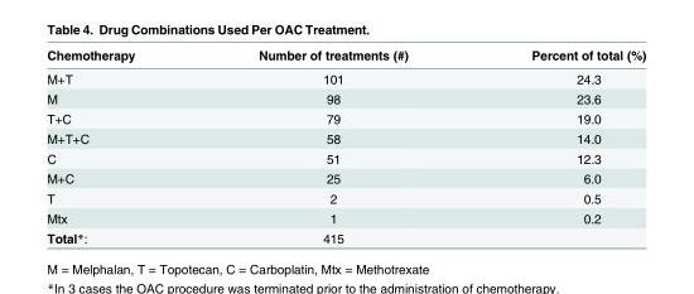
<table><thead><tr><td>Chemotherapy</td><td>Number of treatments (#)</td><td>Percent of total (%)</td></tr></thead><tbody><tr><td>M+T</td><td>101</td><td>24.3</td></tr><tr><td>M</td><td>98</td><td>23.6</td></tr><tr><td>T+C</td><td>79</td><td>19.0</td></tr><tr><td>M+T+C</td><td>58</td><td>14.0</td></tr><tr><td>C</td><td>51</td><td>12.3</td></tr><tr><td>M+C</td><td>25</td><td>6.0</td></tr><tr><td>T</td><td>2</td><td>0.5</td></tr><tr><td>Mtx</td><td>1</td><td>0.2</td></tr><tr><td>Total*:</td><td>415</td><td></td></tr></tbody></table>